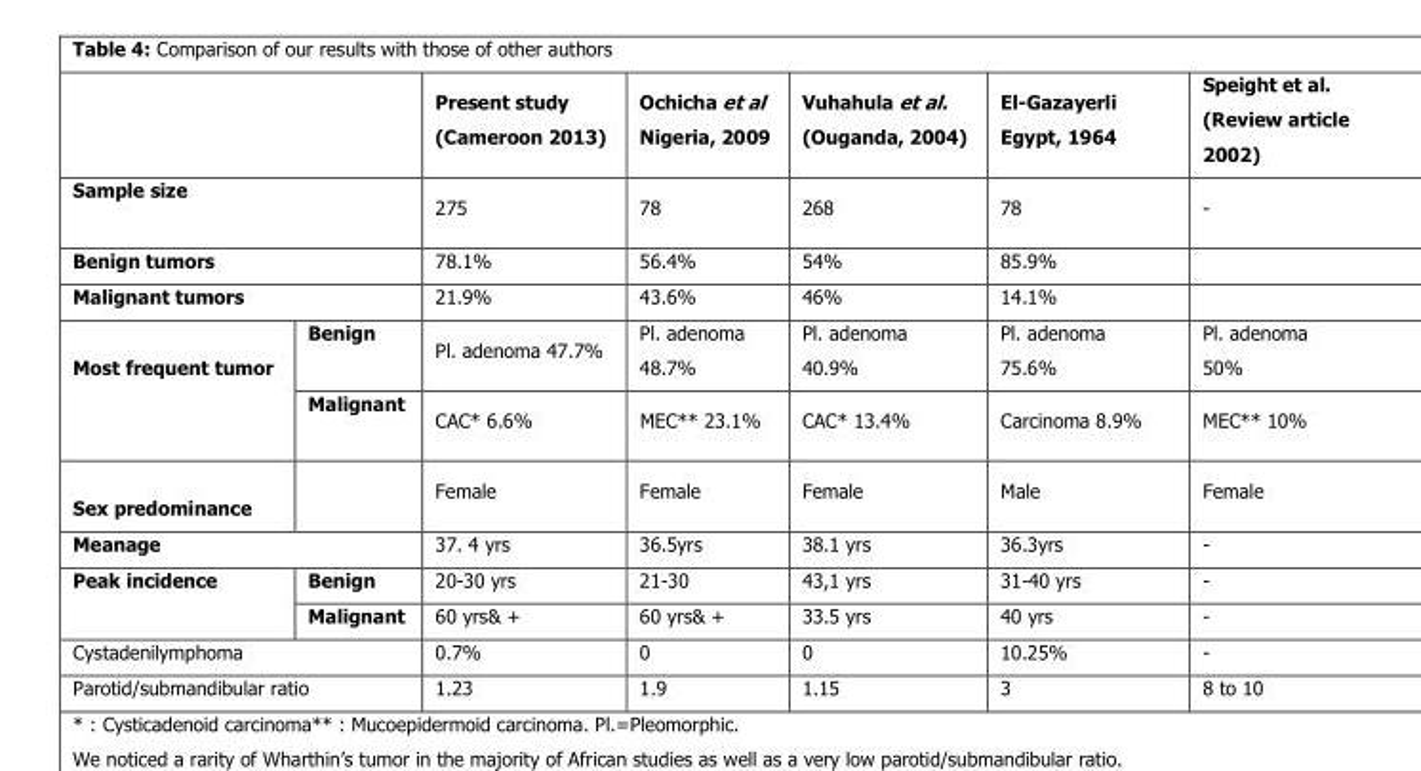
<table><thead><tr><td></td><td></td><td>Present study (Cameroon 2013)</td><td>Ochicha et al Nigeria, 2009</td><td>Vuhahula et al. (Ouganda, 2004)</td><td>El-Gazayerli Egypt, 1964</td><td>Speight et al. (Review article 2002)</td></tr></thead><tbody><tr><td colspan="2">Sample size</td><td>275</td><td>78</td><td>268</td><td>78</td><td>-</td></tr><tr><td colspan="2">Benign tumors</td><td>78.1%</td><td>56.4%</td><td>54%</td><td>85.9%</td><td></td></tr><tr><td colspan="2">Malignant tumors</td><td>21.9%</td><td>43.6%</td><td>46%</td><td>14.1%</td><td></td></tr><tr><td rowspan="2">Most frequent tumor</td><td>Benign</td><td>Pl. adenoma 47.7%</td><td>Pl. adenoma 48.7%</td><td>Pl. adenoma 40.9%</td><td>Pl. adenoma 75.6%</td><td>Pl. adenoma 50%</td></tr><tr><td>Malignant</td><td>CAC* 6.6%</td><td>MEC** 23.1%</td><td>CAC* 13.4%</td><td>Carcinoma 8.9%</td><td>MEC** 10%</td></tr><tr><td>Sex predominance</td><td></td><td>Female</td><td>Female</td><td>Female</td><td>Male</td><td>Female</td></tr><tr><td colspan="2">Meanage</td><td>37. 4 yrs</td><td>36.5yrs</td><td>38.1 yrs</td><td>36.3yrs</td><td>-</td></tr><tr><td rowspan="2">Peak incidence</td><td>Benign</td><td>20-30 yrs</td><td>21-30</td><td>43,1 yrs</td><td>31-40 yrs</td><td>-</td></tr><tr><td>Malignant</td><td>60 yrs&amp; +</td><td>60 yrs&amp; +</td><td>33.5 yrs</td><td>40 yrs</td><td>-</td></tr><tr><td colspan="2">Cystadenilymphoma</td><td>0.7%</td><td>0</td><td>0</td><td>10.25%</td><td>-</td></tr><tr><td colspan="2">Parotid/submandibular ratio</td><td>1.23</td><td>1.9</td><td>1.15</td><td>3</td><td>8 to 10</td></tr></tbody></table>